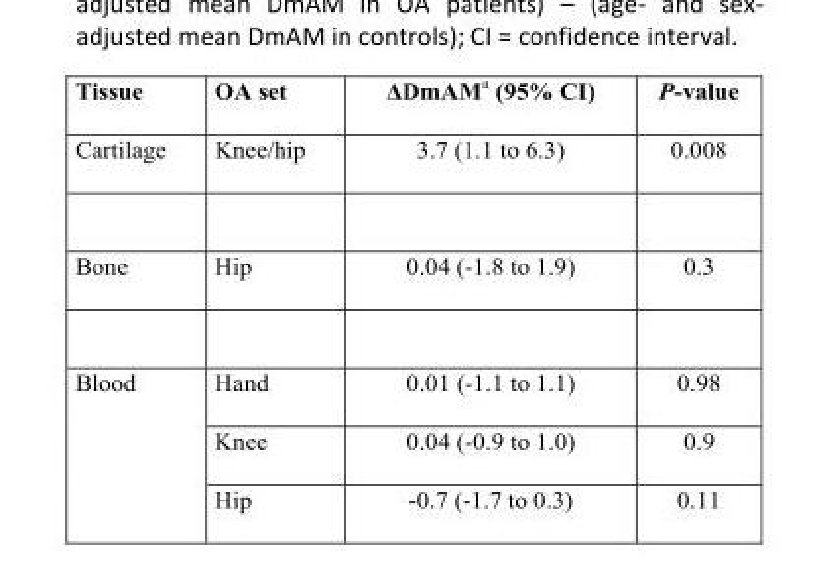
<table><thead><tr><td>Tissue</td><td>OA set</td><td>ΔDmAM<sup>a</sup> (95% CI)</td><td>P-value</td></tr></thead><tbody><tr><td>Cartilage</td><td>Knee/hip</td><td>3.7 (1.1 to 6.3)</td><td>0.008</td></tr><tr><td>Bone</td><td>Hip</td><td>0.04 (-1.8 to 1.9)</td><td>0.3</td></tr><tr><td rowspan="3">Blood</td><td>Hand</td><td>0.01 (-1.1 to 1.1)</td><td>0.98</td></tr><tr><td>Knee</td><td>0.04 (-0.9 to 1.0)</td><td>0.9</td></tr><tr><td>Hip</td><td>-0.7 (-1.7 to 0.3)</td><td>0.11</td></tr></tbody></table>